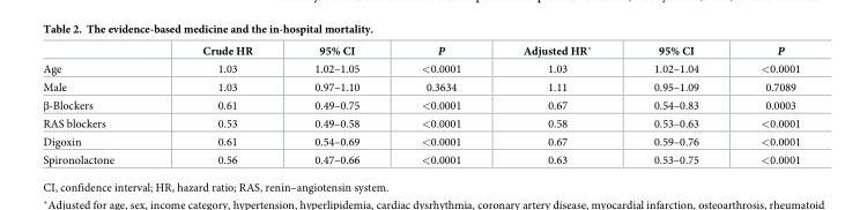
<table><thead><tr><td></td><td>Crude HR</td><td>95% CI</td><td>P</td><td>Adjusted HR*</td><td>95% CI</td><td>P</td></tr></thead><tbody><tr><td>Age</td><td>1.03</td><td>1.02–1.05</td><td>&lt;0.0001</td><td>1.03</td><td>1.02–1.04</td><td>&lt;0.0001</td></tr><tr><td>Male</td><td>1.03</td><td>0.97–1.10</td><td>0.3634</td><td>1.11</td><td>0.95–1.09</td><td>0.7089</td></tr><tr><td>β-Blockers</td><td>0.61</td><td>0.49–0.75</td><td>&lt;0.0001</td><td>0.67</td><td>0.54–0.83</td><td>0.0003</td></tr><tr><td>RAS blockers</td><td>0.53</td><td>0.49–0.58</td><td>&lt;0.0001</td><td>0.58</td><td>0.53–0.63</td><td>&lt;0.0001</td></tr><tr><td>Digoxin</td><td>0.61</td><td>0.54–0.69</td><td>&lt;0.0001</td><td>0.67</td><td>0.59–0.76</td><td>&lt;0.0001</td></tr><tr><td>Spironolactone</td><td>0.56</td><td>0.47–0.66</td><td>&lt;0.0001</td><td>0.63</td><td>0.53–0.75</td><td>&lt;0.0001</td></tr></tbody></table>